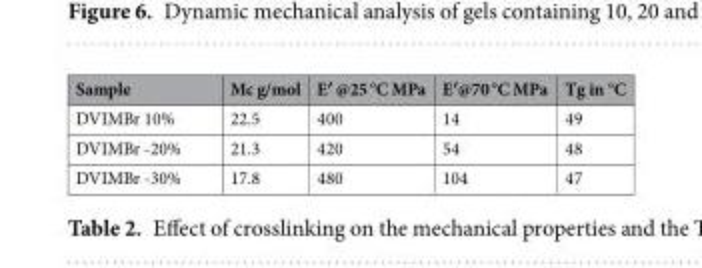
<table><thead><tr><td>Sample</td><td>Mc g/mol</td><td>E′ @25 °C MPa</td><td>E′@70 °C MPa</td><td>Tg in °C</td></tr></thead><tbody><tr><td>DVIMBr 10%</td><td>22.5</td><td>400</td><td>14</td><td>49</td></tr><tr><td>DVIMBr -20%</td><td>21.3</td><td>420</td><td>54</td><td>48</td></tr><tr><td>DVIMBr -30%</td><td>17.8</td><td>480</td><td>104</td><td>47</td></tr></tbody></table>